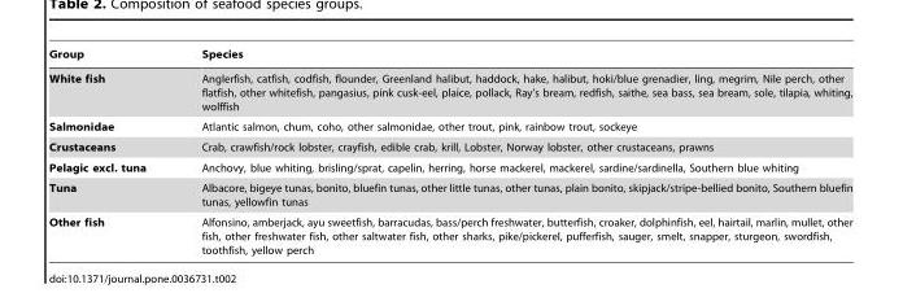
<table><thead><tr><td>Group</td><td>Species</td></tr></thead><tbody><tr><td>White fish</td><td>Anglerfish, catfish, codfish, flounder, Greenland halibut, haddock, hake, halibut, hoki/blue grenadier, ling, megrim, Nile perch, other flatfish, other whitefish, pangasius, pink cusk-eel, plaice, pollack, Ray’s bream, redfish, saithe, sea bass, sea bream, sole, tilapia, whiting, wolffish</td></tr><tr><td>Salmonidae</td><td>Atlantic salmon, chum, coho, other salmonidae, other trout, pink, rainbow trout, sockeye</td></tr><tr><td>Crustaceans</td><td>Crab, crawfish/rock lobster, crayfish, edible crab, krill, Lobster, Norway lobster, other crustaceans, prawns</td></tr><tr><td>Pelagic excl. tuna</td><td>Anchovy, blue whiting, brisling/sprat, capelin, herring, horse mackerel, mackerel, sardine/sardinella, Southern blue whiting</td></tr><tr><td>Tuna</td><td>Albacore, bigeye tunas, bonito, bluefin tunas, other little tunas, other tunas, plain bonito, skipjack/stripe-bellied bonito, Southern bluefin tunas, yellowfin tunas</td></tr><tr><td>Other fish</td><td>Alfonsino, amberjack, ayu sweetfish, barracudas, bass/perch freshwater, butterfish, croaker, dolphinfish, eel, hairtail, marlin, mullet, other fish, other freshwater fish, other saltwater fish, other sharks, pike/pickerel, pufferfish, sauger, smelt, snapper, sturgeon, swordfish, toothfish, yellow perch</td></tr></tbody></table>